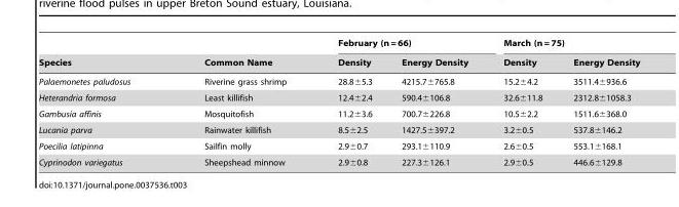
<table><thead><tr><td rowspan="2">Species</td><td rowspan="2">Common Name</td><td colspan="2">February (n = 66)</td><td colspan="2">March (n = 75)</td></tr><tr><td>Density</td><td>Energy Density</td><td>Density</td><td>Energy Density</td></tr></thead><tbody><tr><td>Palaemonetes paludosus</td><td>Riverine grass shrimp</td><td>28.8±5.3</td><td>4215.7±765.8</td><td>15.2±4.2</td><td>3511.4±936.6</td></tr><tr><td>Heterandria formosa</td><td>Least killifish</td><td>12.4±2.4</td><td>590.4±106.8</td><td>32.6±11.8</td><td>2312.8±1058.3</td></tr><tr><td>Gambusia affinis</td><td>Mosquitofish</td><td>11.2±3.6</td><td>700.7±226.8</td><td>10.5±2.2</td><td>1511.6±368.0</td></tr><tr><td>Lucania parva</td><td>Rainwater killifish</td><td>8.5±2.5</td><td>1427.5±397.2</td><td>3.2±0.5</td><td>537.8±146.2</td></tr><tr><td>Poecilia latipinna</td><td>Sailfin molly</td><td>2.9±0.7</td><td>293.1±110.9</td><td>2.6±0.5</td><td>553.1±168.1</td></tr><tr><td>Cyprinodon variegatus</td><td>Sheepshead minnow</td><td>2.9±0.8</td><td>227.3±126.1</td><td>2.9±0.5</td><td>446.6±129.8</td></tr></tbody></table>